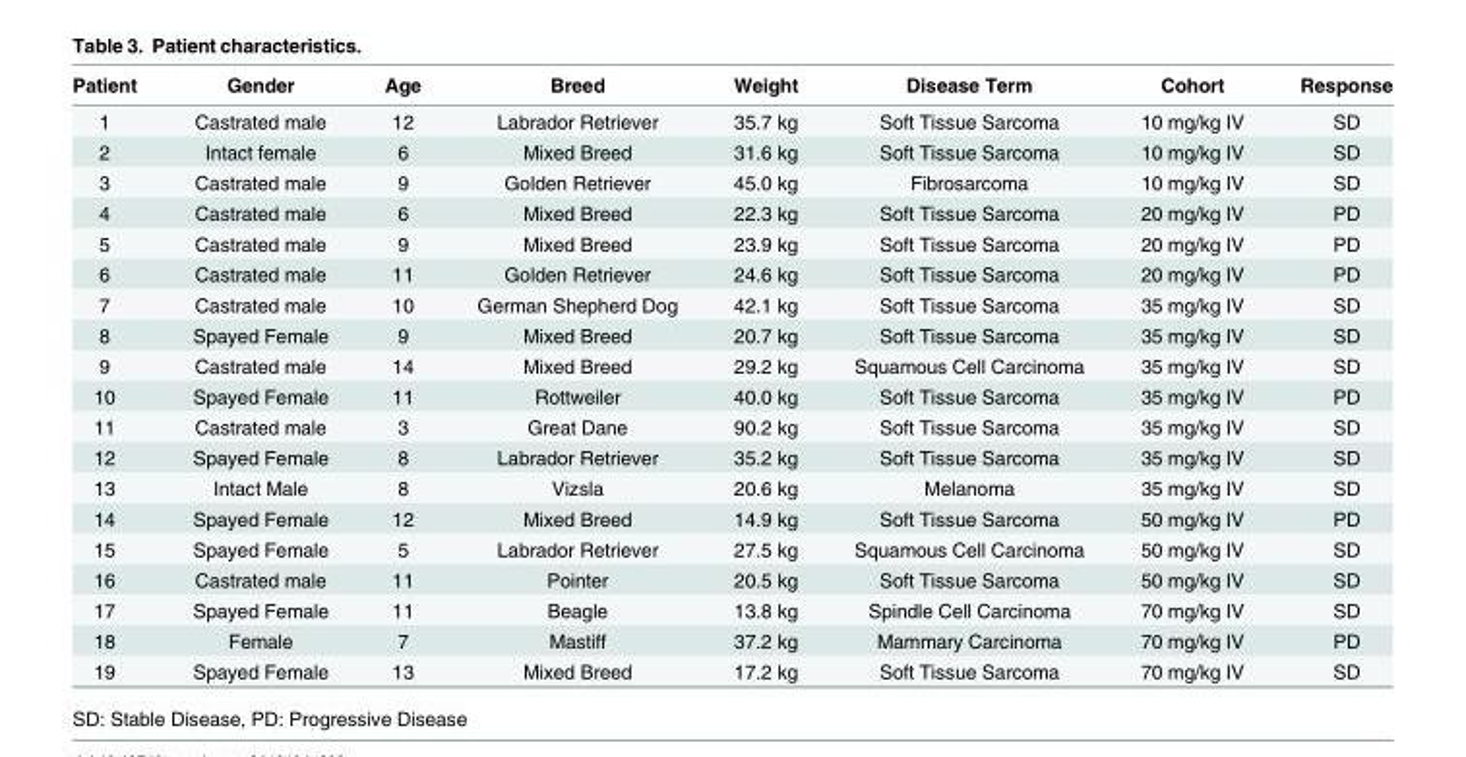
<table><thead><tr><td>Patient</td><td>Gender</td><td>Age</td><td>Breed</td><td>Weight</td><td>Disease Term</td><td>Cohort</td><td>Response</td></tr></thead><tbody><tr><td>1</td><td>Castrated male</td><td>12</td><td>Labrador Retriever</td><td>35.7 kg</td><td>Soft Tissue Sarcoma</td><td>10 mg/kg IV</td><td>SD</td></tr><tr><td>2</td><td>Intact female</td><td>6</td><td>Mixed Breed</td><td>31.6 kg</td><td>Soft Tissue Sarcoma</td><td>10 mg/kg IV</td><td>SD</td></tr><tr><td>3</td><td>Castrated male</td><td>9</td><td>Golden Retriever</td><td>45.0 kg</td><td>Fibrosarcoma</td><td>10 mg/kg IV</td><td>SD</td></tr><tr><td>4</td><td>Castrated male</td><td>6</td><td>Mixed Breed</td><td>22.3 kg</td><td>Soft Tissue Sarcoma</td><td>20 mg/kg IV</td><td>PD</td></tr><tr><td>5</td><td>Castrated male</td><td>9</td><td>Mixed Breed</td><td>23.9 kg</td><td>Soft Tissue Sarcoma</td><td>20 mg/kg IV</td><td>PD</td></tr><tr><td>6</td><td>Castrated male</td><td>11</td><td>Golden Retriever</td><td>24.6 kg</td><td>Soft Tissue Sarcoma</td><td>20 mg/kg IV</td><td>PD</td></tr><tr><td>7</td><td>Castrated male</td><td>10</td><td>German Shepherd Dog</td><td>42.1 kg</td><td>Soft Tissue Sarcoma</td><td>35 mg/kg IV</td><td>SD</td></tr><tr><td>8</td><td>Spayed Female</td><td>9</td><td>Mixed Breed</td><td>20.7 kg</td><td>Soft Tissue Sarcoma</td><td>35 mg/kg IV</td><td>SD</td></tr><tr><td>9</td><td>Castrated male</td><td>14</td><td>Mixed Breed</td><td>29.2 kg</td><td>Squamous Cell Carcinoma</td><td>35 mg/kg IV</td><td>SD</td></tr><tr><td>10</td><td>Spayed Female</td><td>11</td><td>Rottweiler</td><td>40.0 kg</td><td>Soft Tissue Sarcoma</td><td>35 mg/kg IV</td><td>PD</td></tr><tr><td>11</td><td>Castrated male</td><td>3</td><td>Great Dane</td><td>90.2 kg</td><td>Soft Tissue Sarcoma</td><td>35 mg/kg IV</td><td>SD</td></tr><tr><td>12</td><td>Spayed Female</td><td>8</td><td>Labrador Retriever</td><td>35.2 kg</td><td>Soft Tissue Sarcoma</td><td>35 mg/kg IV</td><td>SD</td></tr><tr><td>13</td><td>Intact Male</td><td>8</td><td>Vizsla</td><td>20.6 kg</td><td>Melanoma</td><td>35 mg/kg IV</td><td>SD</td></tr><tr><td>14</td><td>Spayed Female</td><td>12</td><td>Mixed Breed</td><td>14.9 kg</td><td>Soft Tissue Sarcoma</td><td>50 mg/kg IV</td><td>PD</td></tr><tr><td>15</td><td>Spayed Female</td><td>5</td><td>Labrador Retriever</td><td>27.5 kg</td><td>Squamous Cell Carcinoma</td><td>50 mg/kg IV</td><td>SD</td></tr><tr><td>16</td><td>Castrated male</td><td>11</td><td>Pointer</td><td>20.5 kg</td><td>Soft Tissue Sarcoma</td><td>50 mg/kg IV</td><td>SD</td></tr><tr><td>17</td><td>Spayed Female</td><td>11</td><td>Beagle</td><td>13.8 kg</td><td>Spindle Cell Carcinoma</td><td>70 mg/kg IV</td><td>SD</td></tr><tr><td>18</td><td>Female</td><td>7</td><td>Mastiff</td><td>37.2 kg</td><td>Mammary Carcinoma</td><td>70 mg/kg IV</td><td>PD</td></tr><tr><td>19</td><td>Spayed Female</td><td>13</td><td>Mixed Breed</td><td>17.2 kg</td><td>Soft Tissue Sarcoma</td><td>70 mg/kg IV</td><td>SD</td></tr></tbody></table>